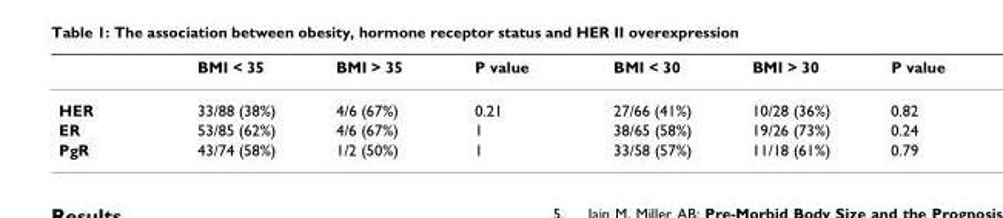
<table><thead><tr><td></td><td>BMI &lt; 35</td><td>BMI &gt; 35</td><td>P value</td><td>BMI &lt; 30</td><td>BMI &gt; 30</td><td>P value</td></tr></thead><tbody><tr><td>HER</td><td>33/88 (38%)</td><td>4/6 (67%)</td><td>0.21</td><td>27/66 (41%)</td><td>10/28 (36%)</td><td>0.82</td></tr><tr><td>ER</td><td>53/85 (62%)</td><td>4/6 (67%)</td><td>1</td><td>38/65 (58%)</td><td>19/26 (73%)</td><td>0.24</td></tr><tr><td>PgR</td><td>43/74 (58%)</td><td>1/2 (50%)</td><td>1</td><td>33/58 (57%)</td><td>11/18 (61%)</td><td>0.79</td></tr></tbody></table>